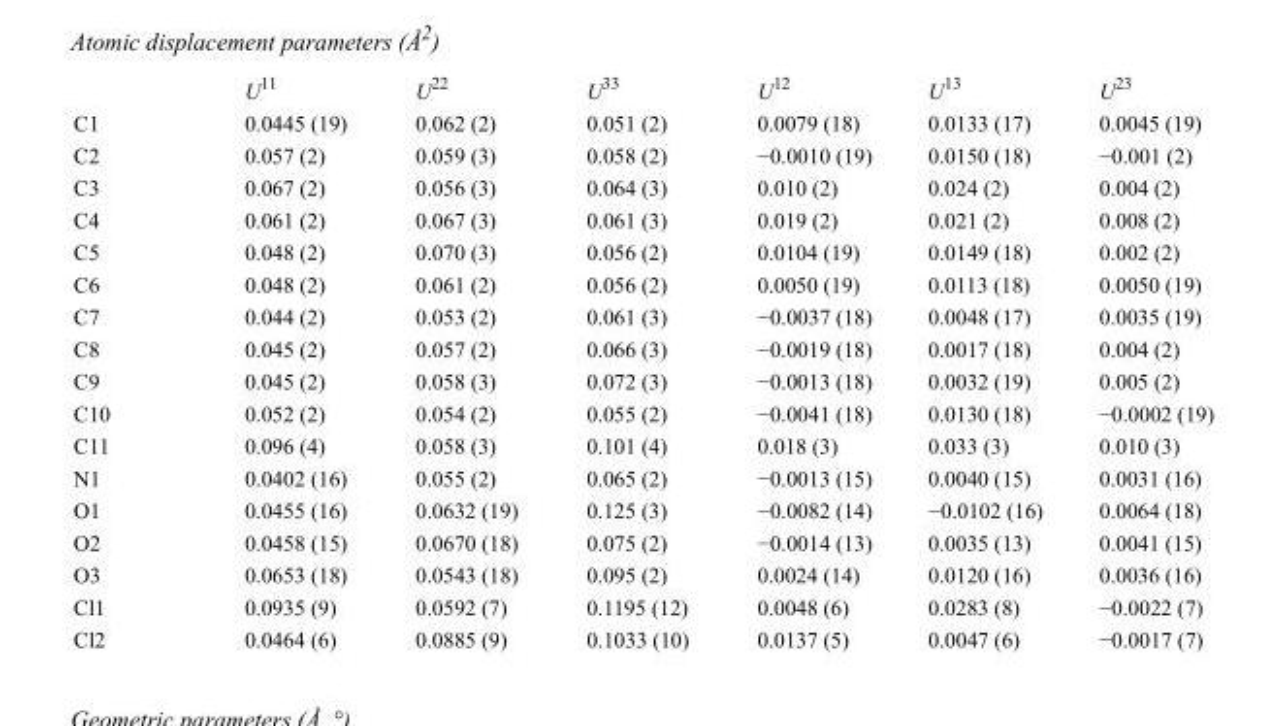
<table><thead><tr><td></td><td>U<sup>11</sup></td><td>U<sup>22</sup></td><td>U<sup>33</sup></td><td>U<sup>12</sup></td><td>U<sup>13</sup></td><td>U<sup>23</sup></td></tr></thead><tbody><tr><td>C1</td><td>0.0445 (19)</td><td>0.062 (2)</td><td>0.051 (2)</td><td>0.0079 (18)</td><td>0.0133 (17)</td><td>0.0045 (19)</td></tr><tr><td>C2</td><td>0.057 (2)</td><td>0.059 (3)</td><td>0.058 (2)</td><td>−0.0010 (19)</td><td>0.0150 (18)</td><td>−0.001 (2)</td></tr><tr><td>C3</td><td>0.067 (2)</td><td>0.056 (3)</td><td>0.064 (3)</td><td>0.010 (2)</td><td>0.024 (2)</td><td>0.004 (2)</td></tr><tr><td>C4</td><td>0.061 (2)</td><td>0.067 (3)</td><td>0.061 (3)</td><td>0.019 (2)</td><td>0.021 (2)</td><td>0.008 (2)</td></tr><tr><td>C5</td><td>0.048 (2)</td><td>0.070 (3)</td><td>0.056 (2)</td><td>0.0104 (19)</td><td>0.0149 (18)</td><td>0.002 (2)</td></tr><tr><td>C6</td><td>0.048 (2)</td><td>0.061 (2)</td><td>0.056 (2)</td><td>0.0050 (19)</td><td>0.0113 (18)</td><td>0.0050 (19)</td></tr><tr><td>C7</td><td>0.044 (2)</td><td>0.053 (2)</td><td>0.061 (3)</td><td>−0.0037 (18)</td><td>0.0048 (17)</td><td>0.0035 (19)</td></tr><tr><td>C8</td><td>0.045 (2)</td><td>0.057 (2)</td><td>0.066 (3)</td><td>−0.0019 (18)</td><td>0.0017 (18)</td><td>0.004 (2)</td></tr><tr><td>C9</td><td>0.045 (2)</td><td>0.058 (3)</td><td>0.072 (3)</td><td>−0.0013 (18)</td><td>0.0032 (19)</td><td>0.005 (2)</td></tr><tr><td>C10</td><td>0.052 (2)</td><td>0.054 (2)</td><td>0.055 (2)</td><td>−0.0041 (18)</td><td>0.0130 (18)</td><td>−0.0002 (19)</td></tr><tr><td>C11</td><td>0.096 (4)</td><td>0.058 (3)</td><td>0.101 (4)</td><td>0.018 (3)</td><td>0.033 (3)</td><td>0.010 (3)</td></tr><tr><td>N1</td><td>0.0402 (16)</td><td>0.055 (2)</td><td>0.065 (2)</td><td>−0.0013 (15)</td><td>0.0040 (15)</td><td>0.0031 (16)</td></tr><tr><td>O1</td><td>0.0455 (16)</td><td>0.0632 (19)</td><td>0.125 (3)</td><td>−0.0082 (14)</td><td>−0.0102 (16)</td><td>0.0064 (18)</td></tr><tr><td>O2</td><td>0.0458 (15)</td><td>0.0670 (18)</td><td>0.075 (2)</td><td>−0.0014 (13)</td><td>0.0035 (13)</td><td>0.0041 (15)</td></tr><tr><td>O3</td><td>0.0653 (18)</td><td>0.0543 (18)</td><td>0.095 (2)</td><td>0.0024 (14)</td><td>0.0120 (16)</td><td>0.0036 (16)</td></tr><tr><td>Cl1</td><td>0.0935 (9)</td><td>0.0592 (7)</td><td>0.1195 (12)</td><td>0.0048 (6)</td><td>0.0283 (8)</td><td>−0.0022 (7)</td></tr><tr><td>Cl2</td><td>0.0464 (6)</td><td>0.0885 (9)</td><td>0.1033 (10)</td><td>0.0137 (5)</td><td>0.0047 (6)</td><td>−0.0017 (7)</td></tr></tbody></table>